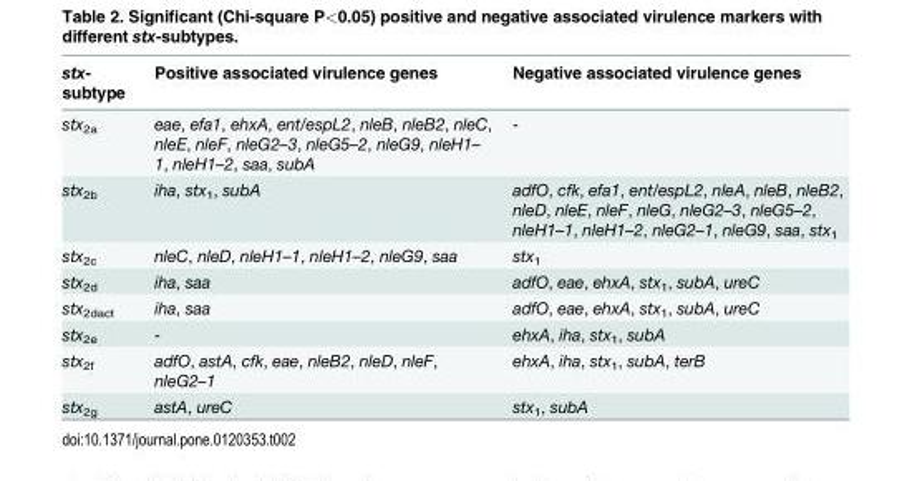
<table><thead><tr><td>stx- subtype</td><td>Positive associated virulence genes</td><td>Negative associated virulence genes</td></tr></thead><tbody><tr><td>stx<sub>2a</sub></td><td>eae, efa1, ehxA, ent/espL2, nleB, nleB2, nleC, nleE, nleF, nleG2–3, nleG5–2, nleG9, nleH1– 1, nleH1–2, saa, subA</td><td>-</td></tr><tr><td>stx<sub>2b</sub></td><td>iha, stx<sub>1</sub>, subA</td><td>adfO, cfk, efa1, ent/espL2, nleA, nleB, nleB2, nleD, nleE, nleF, nleG, nleG2–3, nleG5–2, nleH1–1, nleH1–2, nleG2–1, nleG9, saa, stx<sub>1</sub></td></tr><tr><td>stx<sub>2c</sub></td><td>nleC, nleD, nleH1–1, nleH1–2, nleG9, saa</td><td>stx<sub>1</sub></td></tr><tr><td>stx<sub>2d</sub></td><td>iha, saa</td><td>adfO, eae, ehxA, stx<sub>1</sub>, subA, ureC</td></tr><tr><td>stx<sub>2dact</sub></td><td>iha, saa</td><td>adfO, eae, ehxA, stx<sub>1</sub>, subA, ureC</td></tr><tr><td>stx<sub>2e</sub></td><td>-</td><td>ehxA, iha, stx<sub>1</sub>, subA</td></tr><tr><td>stx<sub>2f</sub></td><td>adfO, astA, cfk, eae, nleB2, nleD, nleF, nleG2–1</td><td>ehxA, iha, stx<sub>1</sub>, subA, terB</td></tr><tr><td>stx<sub>2g</sub></td><td>astA, ureC</td><td>stx<sub>1</sub>, subA</td></tr></tbody></table>